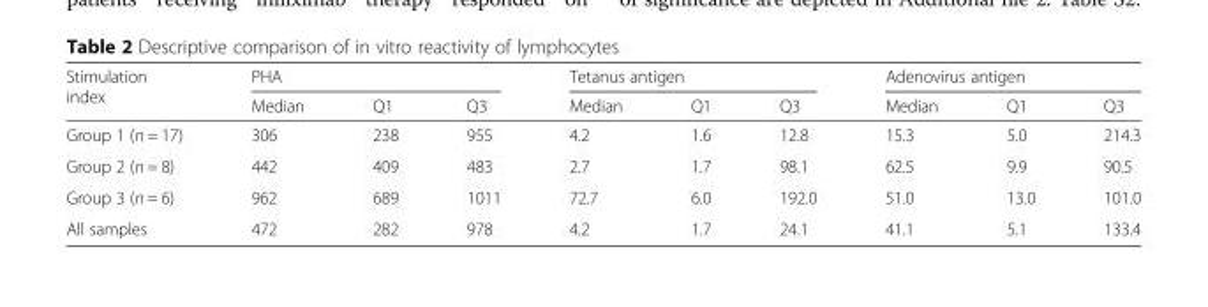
<table><thead><tr><td rowspan="2">Stimulation index</td><td colspan="3">PHA</td><td colspan="3">Tetanus antigen</td><td colspan="3">Adenovirus antigen</td></tr><tr><td>Median</td><td>Q1</td><td>Q3</td><td>Median</td><td>Q1</td><td>Q3</td><td>Median</td><td>Q1</td><td>Q3</td></tr></thead><tbody><tr><td>Group 1 (n = 17)</td><td>306</td><td>238</td><td>955</td><td>4.2</td><td>1.6</td><td>12.8</td><td>15.3</td><td>5.0</td><td>214.3</td></tr><tr><td>Group 2 (n = 8)</td><td>442</td><td>409</td><td>483</td><td>2.7</td><td>1.7</td><td>98.1</td><td>62.5</td><td>9.9</td><td>90.5</td></tr><tr><td>Group 3 (n = 6)</td><td>962</td><td>689</td><td>1011</td><td>72.7</td><td>6.0</td><td>192.0</td><td>51.0</td><td>13.0</td><td>101.0</td></tr><tr><td>All samples</td><td>472</td><td>282</td><td>978</td><td>4.2</td><td>1.7</td><td>24.1</td><td>41.1</td><td>5.1</td><td>133.4</td></tr></tbody></table>